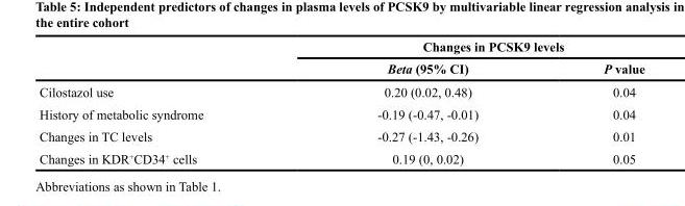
<table><thead><tr><td rowspan="2"></td><td colspan="2">Changes in PCSK9 levels</td></tr><tr><td>Beta (95% CI)</td><td>P value</td></tr></thead><tbody><tr><td>Cilostazol use</td><td>0.20 (0.02, 0.48)</td><td>0.04</td></tr><tr><td>History of metabolic syndrome</td><td>-0.19 (-0.47, -0.01)</td><td>0.04</td></tr><tr><td>Changes in TC levels</td><td>-0.27 (-1.43, -0.26)</td><td>0.01</td></tr><tr><td>Changes in KDR<sup>+</sup>CD34<sup>+</sup> cells</td><td>0.19 (0, 0.02)</td><td>0.05</td></tr></tbody></table>